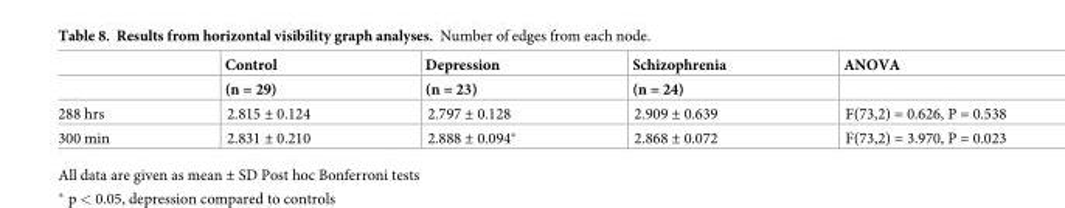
<table><thead><tr><td rowspan="2"></td><td rowspan="2">Control (n = 29)</td><td rowspan="2">Depression (n = 23)</td><td rowspan="2">Schizophrenia (n = 24)</td><td rowspan="2">ANOVA</td></tr><tr></tr></thead><tbody><tr><td>288 hrs</td><td>2.815 ± 0.124</td><td>2.797 ± 0.128</td><td>2.909 ± 0.639</td><td>F(73,2) = 0.626, P = 0.538</td></tr><tr><td>300 min</td><td>2.831 ± 0.210</td><td>2.888 ± 0.094*</td><td>2.868 ± 0.072</td><td>F(73,2) = 3.970, P = 0.023</td></tr></tbody></table>